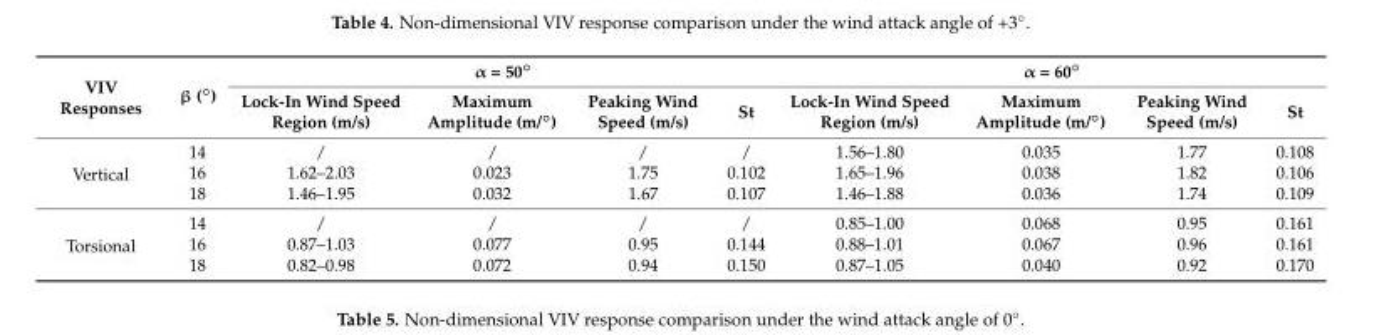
<table><thead><tr><td rowspan="2">VIV Responses</td><td rowspan="2">β (◦)</td><td colspan="4">α = 50◦</td><td colspan="4">α = 60◦</td></tr><tr><td>Lock-In Wind Speed Region (m/s)</td><td>Maximum Amplitude (m/◦)</td><td>Peaking Wind Speed (m/s)</td><td>St</td><td>Lock-In Wind Speed Region (m/s)</td><td>Maximum Amplitude (m/◦)</td><td>Peaking Wind Speed (m/s)</td><td>St</td></tr></thead><tbody><tr><td rowspan="3">Vertical</td><td>14</td><td>/</td><td>/</td><td>/</td><td>/</td><td>1.56–1.80</td><td>0.035</td><td>1.77</td><td>0.108</td></tr><tr><td>16</td><td>1.62–2.03</td><td>0.023</td><td>1.75</td><td>0.102</td><td>1.65–1.96</td><td>0.038</td><td>1.82</td><td>0.106</td></tr><tr><td>18</td><td>1.46–1.95</td><td>0.032</td><td>1.67</td><td>0.107</td><td>1.46–1.88</td><td>0.036</td><td>1.74</td><td>0.109</td></tr><tr><td rowspan="3">Torsional</td><td>14</td><td>/</td><td>/</td><td>/</td><td>/</td><td>0.85–1.00</td><td>0.068</td><td>0.95</td><td>0.161</td></tr><tr><td>16</td><td>0.87–1.03</td><td>0.077</td><td>0.95</td><td>0.144</td><td>0.88–1.01</td><td>0.067</td><td>0.96</td><td>0.161</td></tr><tr><td>18</td><td>0.82–0.98</td><td>0.072</td><td>0.94</td><td>0.150</td><td>0.87–1.05</td><td>0.040</td><td>0.92</td><td>0.170</td></tr></tbody></table>